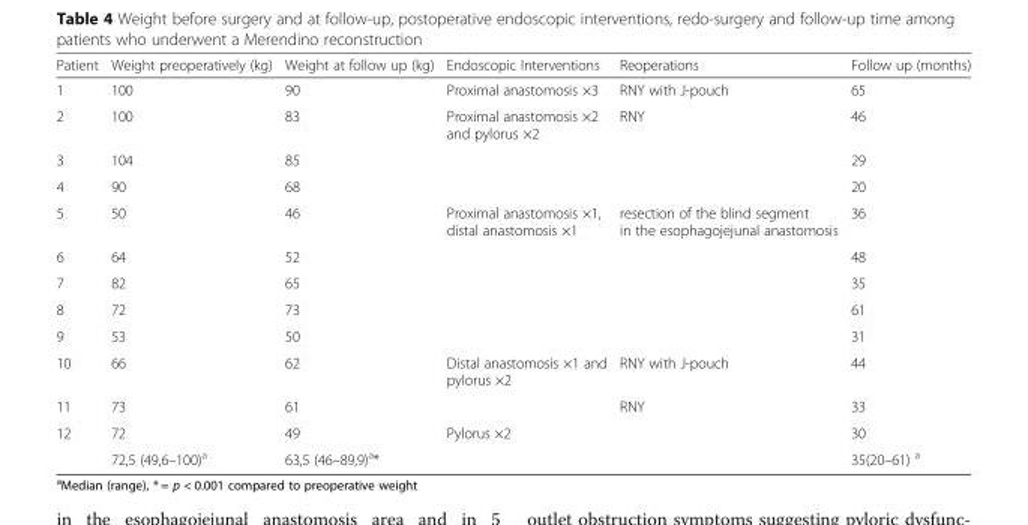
<table><thead><tr><td>Patient</td><td>Weight preoperatively (kg)</td><td>Weight at follow up (kg)</td><td>Endoscopic Interventions</td><td>Reoperations</td><td>Follow up (months)</td></tr></thead><tbody><tr><td>1</td><td>100</td><td>90</td><td>Proximal anastomosis ×3</td><td>RNY with J-pouch</td><td>65</td></tr><tr><td>2</td><td>100</td><td>83</td><td>Proximal anastomosis ×2 and pylorus ×2</td><td>RNY</td><td>46</td></tr><tr><td>3</td><td>104</td><td>85</td><td></td><td></td><td>29</td></tr><tr><td>4</td><td>90</td><td>68</td><td></td><td></td><td>20</td></tr><tr><td>5</td><td>50</td><td>46</td><td>Proximal anastomosis ×1, distal anastomosis ×1</td><td>resection of the blind segment in the esophagojejunal anastomosis</td><td>36</td></tr><tr><td>6</td><td>64</td><td>52</td><td></td><td></td><td>48</td></tr><tr><td>7</td><td>82</td><td>65</td><td></td><td></td><td>35</td></tr><tr><td>8</td><td>72</td><td>73</td><td></td><td></td><td>61</td></tr><tr><td>9</td><td>53</td><td>50</td><td></td><td></td><td>31</td></tr><tr><td>10</td><td>66</td><td>62</td><td>Distal anastomosis ×1 and pylorus ×2</td><td>RNY with J-pouch</td><td>44</td></tr><tr><td>11</td><td>73</td><td>61</td><td></td><td>RNY</td><td>33</td></tr><tr><td rowspan="2">12</td><td>72</td><td>49</td><td>Pylorus ×2</td><td></td><td>30</td></tr><tr><td>72,5 (49,6–100)<sup>a</sup></td><td>63,5 (46–89,9)<sup>a</sup>*</td><td></td><td></td><td>35(20–61) <sup>a</sup></td></tr></tbody></table>